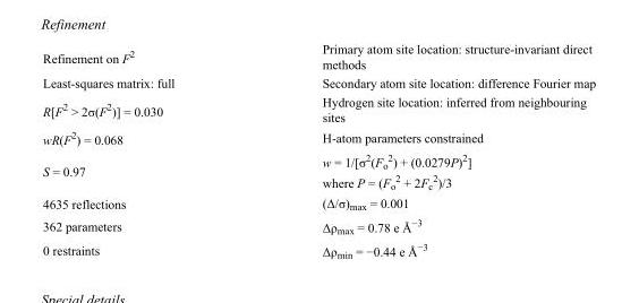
<table><tbody><tr><td>Refinement on F<sup>2</sup></td><td>Primary atom site location: structure-invariant direct methods</td></tr><tr><td>Least-squares matrix: full</td><td>Secondary atom site location: difference Fourier map</td></tr><tr><td>R[F<sup>2</sup> &gt; 2σ(F<sup>2</sup>)] = 0.030</td><td>Hydrogen site location: inferred from neighbouring sites</td></tr><tr><td>wR(F<sup>2</sup>) = 0.068</td><td>H-atom parameters constrained</td></tr><tr><td>S = 0.97</td><td>w = 1/[σ<sup>2</sup>(F<sub>o</sub> <sup>2</sup>) + (0.0279P)<sup>2</sup>] where P = (F<sub>o</sub> <sup>2</sup> + 2F<sub>c</sub> <sup>2</sup>)/3</td></tr><tr><td>4635 reflections</td><td>(Δ/σ)<sub>max</sub> = 0.001</td></tr><tr><td>362 parameters</td><td>Δρ<sub>max</sub> = 0.78 e Å<sup>−3</sup></td></tr><tr><td>0 restraints</td><td>Δρ<sub>min</sub> = −0.44 e Å<sup>−3</sup></td></tr></tbody></table>